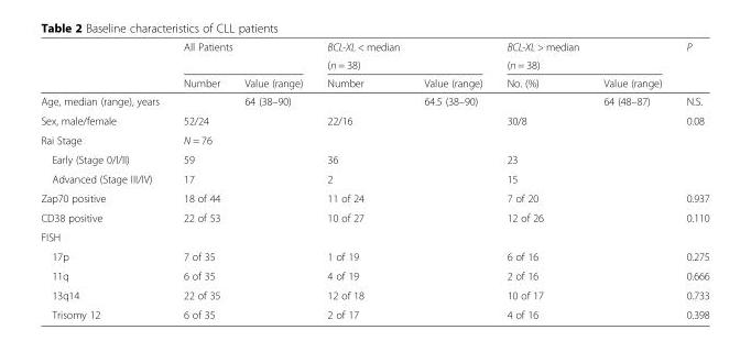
<table><thead><tr><td rowspan="3"></td><td rowspan="2" colspan="2">All Patients</td><td>BCL-XL &lt; median</td><td></td><td>BCL-XL &gt; median</td><td></td><td rowspan="3">P</td></tr><tr><td colspan="2">(n = 38)</td><td colspan="2">(n = 38)</td></tr><tr><td>Number</td><td>Value (range)</td><td>Number</td><td>Value (range)</td><td>No. (%)</td><td>Value (range)</td></tr></thead><tbody><tr><td>Age, median (range), years</td><td></td><td>64 (38–90)</td><td></td><td>64.5 (38–90)</td><td></td><td>64 (48–87)</td><td>N.S.</td></tr><tr><td>Sex, male/female</td><td>52/24</td><td></td><td>22/16</td><td></td><td>30/8</td><td></td><td>0.08</td></tr><tr><td>Rai Stage</td><td>N = 76</td><td></td><td></td><td></td><td></td><td></td><td></td></tr><tr><td>Early (Stage 0/I/II)</td><td>59</td><td></td><td>36</td><td></td><td>23</td><td></td><td></td></tr><tr><td>Advanced (Stage III/IV)</td><td>17</td><td></td><td>2</td><td></td><td>15</td><td></td><td></td></tr><tr><td>Zap70 positive</td><td>18 of 44</td><td></td><td>11 of 24</td><td></td><td>7 of 20</td><td></td><td>0.937</td></tr><tr><td>CD38 positive</td><td>22 of 53</td><td></td><td>10 of 27</td><td></td><td>12 of 26</td><td></td><td>0.110</td></tr><tr><td colspan="8">FISH</td></tr><tr><td>17p</td><td>7 of 35</td><td></td><td>1 of 19</td><td></td><td>6 of 16</td><td></td><td>0.275</td></tr><tr><td>11q</td><td>6 of 35</td><td></td><td>4 of 19</td><td></td><td>2 of 16</td><td></td><td>0.666</td></tr><tr><td>13q14</td><td>22 of 35</td><td></td><td>12 of 18</td><td></td><td>10 of 17</td><td></td><td>0.733</td></tr><tr><td>Trisomy 12</td><td>6 of 35</td><td></td><td>2 of 17</td><td></td><td>4 of 16</td><td></td><td>0.398</td></tr></tbody></table>